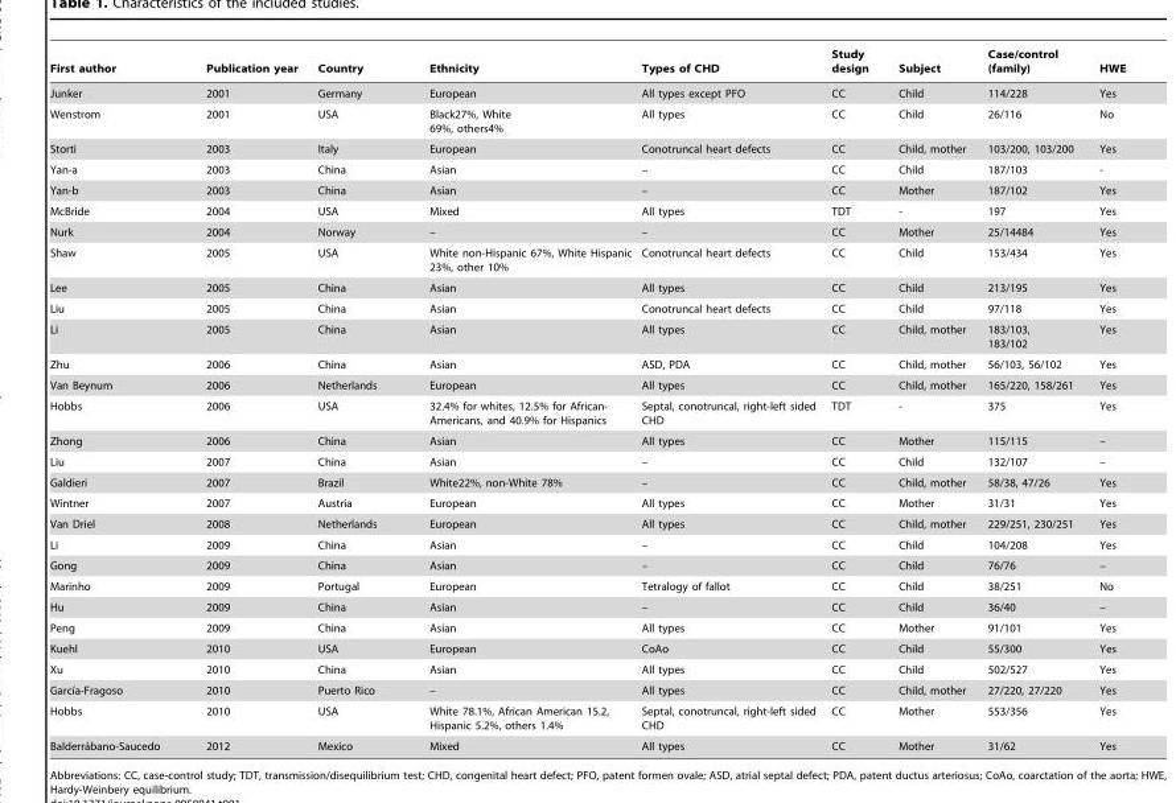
<table><thead><tr><td>First author</td><td>Publication year</td><td>Country</td><td>Ethnicity</td><td>Types of CHD</td><td>Study design</td><td>Subject</td><td>Case/control (family)</td><td>HWE</td></tr></thead><tbody><tr><td>Junker</td><td>2001</td><td>Germany</td><td>European</td><td>All types except PFO</td><td>CC</td><td>Child</td><td>114/228</td><td>Yes</td></tr><tr><td>Wenstrom</td><td>2001</td><td>USA</td><td>Black27%, White 69%, others4%</td><td>All types</td><td>CC</td><td>Child</td><td>26/116</td><td>No</td></tr><tr><td>Storti</td><td>2003</td><td>Italy</td><td>European</td><td>Conotruncal heart defects</td><td>CC</td><td>Child, mother</td><td>103/200, 103/200</td><td>Yes</td></tr><tr><td>Yan-a</td><td>2003</td><td>China</td><td>Asian</td><td>–</td><td>CC</td><td>Child</td><td>187/103</td><td>-</td></tr><tr><td>Yan-b</td><td>2003</td><td>China</td><td>Asian</td><td>–</td><td>CC</td><td>Mother</td><td>187/102</td><td>Yes</td></tr><tr><td>McBride</td><td>2004</td><td>USA</td><td>Mixed</td><td>All types</td><td>TDT</td><td>-</td><td>197</td><td>Yes</td></tr><tr><td>Nurk</td><td>2004</td><td>Norway</td><td>–</td><td>–</td><td>CC</td><td>Mother</td><td>25/14484</td><td>Yes</td></tr><tr><td>Shaw</td><td>2005</td><td>USA</td><td>White non-Hispanic 67%, White Hispanic 23%, other 10%</td><td>Conotruncal heart defects</td><td>CC</td><td>Child</td><td>153/434</td><td>Yes</td></tr><tr><td>Lee</td><td>2005</td><td>China</td><td>Asian</td><td>All types</td><td>CC</td><td>Child</td><td>213/195</td><td>Yes</td></tr><tr><td>Liu</td><td>2005</td><td>China</td><td>Asian</td><td>Conotruncal heart defects</td><td>CC</td><td>Child</td><td>97/118</td><td>Yes</td></tr><tr><td>Li</td><td>2005</td><td>China</td><td>Asian</td><td>All types</td><td>CC</td><td>Child, mother</td><td>183/103, 183/102</td><td>Yes</td></tr><tr><td>Zhu</td><td>2006</td><td>China</td><td>Asian</td><td>ASD, PDA</td><td>CC</td><td>Child, mother</td><td>56/103, 56/102</td><td>Yes</td></tr><tr><td>Van Beynum</td><td>2006</td><td>Netherlands</td><td>European</td><td>All types</td><td>CC</td><td>Child, mother</td><td>165/220, 158/261</td><td>Yes</td></tr><tr><td>Hobbs</td><td>2006</td><td>USA</td><td>32.4% for whites, 12.5% for African- Americans, and 40.9% for Hispanics</td><td>Septal, conotruncal, right-left sided CHD</td><td>TDT</td><td>-</td><td>375</td><td>Yes</td></tr><tr><td>Zhong</td><td>2006</td><td>China</td><td>Asian</td><td>All types</td><td>CC</td><td>Mother</td><td>115/115</td><td>–</td></tr><tr><td>Liu</td><td>2007</td><td>China</td><td>Asian</td><td>–</td><td>CC</td><td>Child</td><td>132/107</td><td>–</td></tr><tr><td>Galdieri</td><td>2007</td><td>Brazil</td><td>White22%, non-White 78%</td><td>–</td><td>CC</td><td>Child, mother</td><td>58/38, 47/26</td><td>Yes</td></tr><tr><td>Wintner</td><td>2007</td><td>Austria</td><td>European</td><td>All types</td><td>CC</td><td>Mother</td><td>31/31</td><td>Yes</td></tr><tr><td>Van Driel</td><td>2008</td><td>Netherlands</td><td>European</td><td>All types</td><td>CC</td><td>Child, mother</td><td>229/251, 230/251</td><td>Yes</td></tr><tr><td>Li</td><td>2009</td><td>China</td><td>Asian</td><td>–</td><td>CC</td><td>Child</td><td>104/208</td><td>Yes</td></tr><tr><td>Gong</td><td>2009</td><td>China</td><td>Asian</td><td>–</td><td>CC</td><td>Child</td><td>76/76</td><td>–</td></tr><tr><td>Marinho</td><td>2009</td><td>Portugal</td><td>European</td><td>Tetralogy of fallot</td><td>CC</td><td>Child</td><td>38/251</td><td>No</td></tr><tr><td>Hu</td><td>2009</td><td>China</td><td>Asian</td><td>–</td><td>CC</td><td>Child</td><td>36/40</td><td>–</td></tr><tr><td>Peng</td><td>2009</td><td>China</td><td>Asian</td><td>All types</td><td>CC</td><td>Mother</td><td>91/101</td><td>Yes</td></tr><tr><td>Kuehl</td><td>2010</td><td>USA</td><td>European</td><td>CoAo</td><td>CC</td><td>Child</td><td>55/300</td><td>Yes</td></tr><tr><td>Xu</td><td>2010</td><td>China</td><td>Asian</td><td>All types</td><td>CC</td><td>Child</td><td>502/527</td><td>Yes</td></tr><tr><td>Garcı´a-Fragoso</td><td>2010</td><td>Puerto Rico</td><td>–</td><td>All types</td><td>CC</td><td>Child, mother</td><td>27/220, 27/220</td><td>Yes</td></tr><tr><td>Hobbs</td><td>2010</td><td>USA</td><td>White 78.1%, African American 15.2, Hispanic 5.2%, others 1.4%</td><td>Septal, conotruncal, right-left sided CHD</td><td>CC</td><td>Mother</td><td>553/356</td><td>Yes</td></tr><tr><td>Balderra´bano-Saucedo</td><td>2012</td><td>Mexico</td><td>Mixed</td><td>All types</td><td>CC</td><td>Mother</td><td>31/62</td><td>Yes</td></tr></tbody></table>